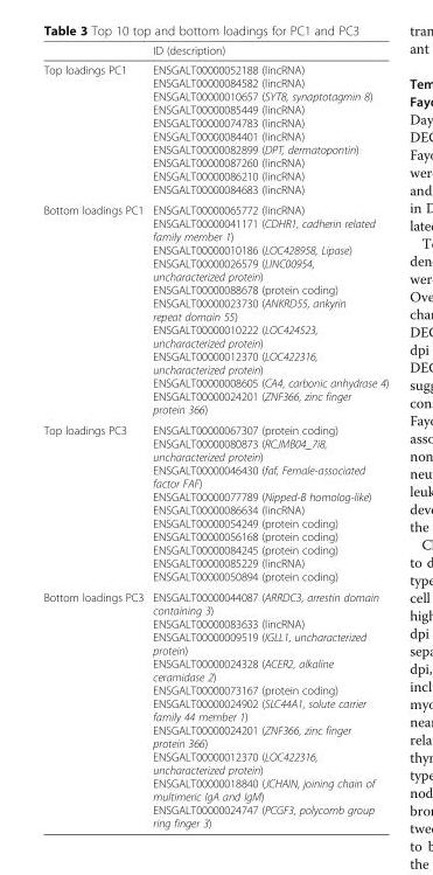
<table><thead><tr><td></td><td>ID (description)</td></tr></thead><tbody><tr><td>Top loadings PC1</td><td>ENSGALT00000052188 (lincRNA) ENSGALT00000084582 (lincRNA) ENSGALT00000010657 (SYT8, synaptotagmin 8) ENSGALT00000085449 (lincRNA) ENSGALT00000074783 (lincRNA) ENSGALT00000084401 (lincRNA) ENSGALT00000082899 (DPT, dermatopontin) ENSGALT00000087260 (lincRNA) ENSGALT00000086210 (lincRNA) ENSGALT00000084683 (lincRNA)</td></tr><tr><td>Bottom loadings PC1</td><td>ENSGALT00000065772 (lincRNA) ENSGALT00000041171 (CDHR1, cadherin related family member 1) ENSGALT00000010186 (LOC428958, Lipase) ENSGALT00000026579 (LINC00954, uncharacterized protein) ENSGALT00000088678 (protein coding) ENSGALT00000023730 (ANKRD55, ankyrin repeat domain 55) ENSGALT00000010222 (LOC424523, uncharacterized protein) ENSGALT00000012370 (LOC422316, uncharacterized protein) ENSGALT00000008605 (CA4, carbonic anhydrase 4) ENSGALT00000024201 (ZNF366, zinc finger protein 366)</td></tr><tr><td>Top loadings PC3</td><td>ENSGALT00000067307 (protein coding) ENSGALT00000080873 (RCJMB04_7i8, uncharacterized protein) ENSGALT00000046430 (faf, Female-associated factor FAF) ENSGALT00000077789 (Nipped-B homolog-like) ENSGALT00000086634 (lincRNA) ENSGALT00000054249 (protein coding) ENSGALT00000056168 (protein coding) ENSGALT00000084245 (protein coding) ENSGALT00000085229 (lincRNA) ENSGALT00000050894 (protein coding)</td></tr><tr><td>Bottom loadings PC3</td><td>ENSGALT00000044087 (ARRDC3, arrestin domain containing 3) ENSGALT00000083633 (lincRNA) ENSGALT00000009519 (IGLL1, uncharacterized protein) ENSGALT00000024328 (ACER2, alkaline ceramidase 2) ENSGALT00000073167 (protein coding) ENSGALT00000024902 (SLC44A1, solute carrier family 44 member 1) ENSGALT00000024201 (ZNF366, zinc finger protein 366) ENSGALT00000012370 (LOC422316, uncharacterized protein) ENSGALT00000018840 (JCHAIN, joining chain of multimeric IgA and IgM) ENSGALT00000024747 (PCGF3, polycomb group ring finger 3)</td></tr></tbody></table>